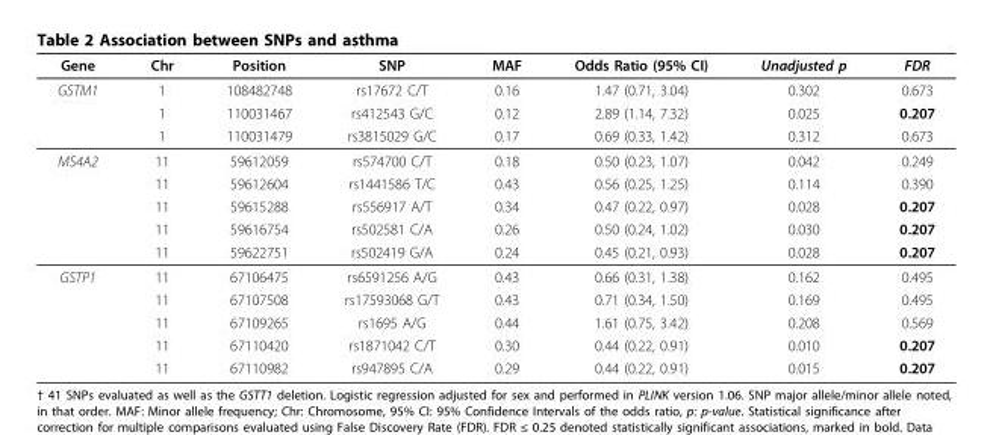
<table><thead><tr><td>Gene</td><td>Chr</td><td>Position</td><td>SNP</td><td>MAF</td><td>Odds Ratio (95% CI)</td><td>Unadjusted p</td><td>FDR</td></tr></thead><tbody><tr><td rowspan="3">GSTM1</td><td>1</td><td>108482748</td><td>rs17672 C/T</td><td>0.16</td><td>1.47 (0.71, 3.04)</td><td>0.302</td><td>0.673</td></tr><tr><td>1</td><td>110031467</td><td>rs412543 G/C</td><td>0.12</td><td>2.89 (1.14, 7.32)</td><td>0.025</td><td>0.207</td></tr><tr><td>1</td><td>110031479</td><td>rs3815029 G/C</td><td>0.17</td><td>0.69 (0.33, 1.42)</td><td>0.312</td><td>0.673</td></tr><tr><td rowspan="5">MS4A2</td><td>11</td><td>59612059</td><td>rs574700 C/T</td><td>0.18</td><td>0.50 (0.23, 1.07)</td><td>0.042</td><td>0.249</td></tr><tr><td>11</td><td>59612604</td><td>rs1441586 T/C</td><td>0.43</td><td>0.56 (0.25, 1.25)</td><td>0.114</td><td>0.390</td></tr><tr><td>11</td><td>59615288</td><td>rs556917 A/T</td><td>0.34</td><td>0.47 (0.22, 0.97)</td><td>0.028</td><td>0.207</td></tr><tr><td>11</td><td>59616754</td><td>rs502581 C/A</td><td>0.26</td><td>0.50 (0.24, 1.02)</td><td>0.030</td><td>0.207</td></tr><tr><td>11</td><td>59622751</td><td>rs502419 G/A</td><td>0.24</td><td>0.45 (0.21, 0.93)</td><td>0.028</td><td>0.207</td></tr><tr><td rowspan="5">GSTP1</td><td>11</td><td>67106475</td><td>rs6591256 A/G</td><td>0.43</td><td>0.66 (0.31, 1.38)</td><td>0.162</td><td>0.495</td></tr><tr><td>11</td><td>67107508</td><td>rs17593068 G/T</td><td>0.43</td><td>0.71 (0.34, 1.50)</td><td>0.169</td><td>0.495</td></tr><tr><td>11</td><td>67109265</td><td>rs1695 A/G</td><td>0.44</td><td>1.61 (0.75, 3.42)</td><td>0.208</td><td>0.569</td></tr><tr><td>11</td><td>67110420</td><td>rs1871042 C/T</td><td>0.30</td><td>0.44 (0.22, 0.91)</td><td>0.010</td><td>0.207</td></tr><tr><td>11</td><td>67110982</td><td>rs947895 C/A</td><td>0.29</td><td>0.44 (0.22, 0.91)</td><td>0.015</td><td>0.207</td></tr></tbody></table>